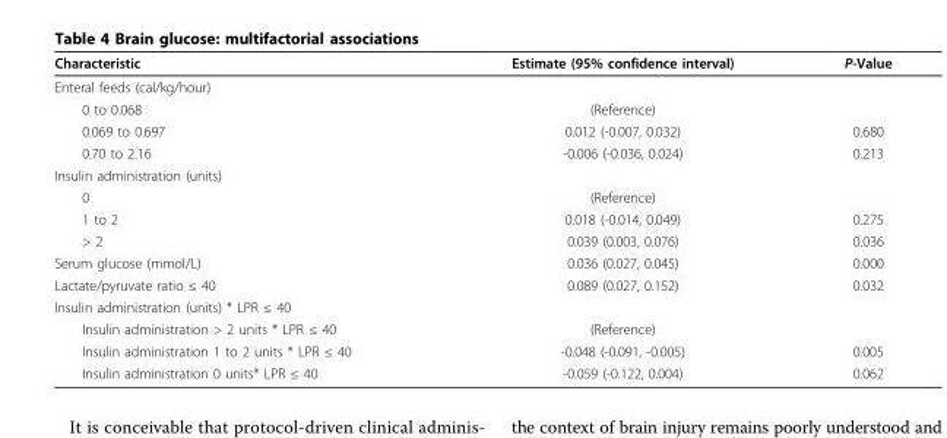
<table><thead><tr><td>Characteristic</td><td>Estimate (95% confidence interval)</td><td>P-Value</td></tr></thead><tbody><tr><td colspan="3">Enteral feeds (cal/kg/hour)</td></tr><tr><td>0 to 0.068</td><td>(Reference)</td><td></td></tr><tr><td>0.069 to 0.697</td><td>0.012 (-0.007, 0.032)</td><td>0.680</td></tr><tr><td>0.70 to 2.16</td><td>-0.006 (-0.036, 0.024)</td><td>0.213</td></tr><tr><td colspan="3">Insulin administration (units)</td></tr><tr><td>0</td><td>(Reference)</td><td></td></tr><tr><td>1 to 2</td><td>0.018 (-0.014, 0.049)</td><td>0.275</td></tr><tr><td>&gt; 2</td><td>0.039 (0.003, 0.076)</td><td>0.036</td></tr><tr><td>Serum glucose (mmol/L)</td><td>0.036 (0.027, 0.045)</td><td>0.000</td></tr><tr><td>Lactate/pyruvate ratio ≤ 40</td><td>0.089 (0.027, 0.152)</td><td>0.032</td></tr><tr><td colspan="3">Insulin administration (units) * LPR ≤ 40</td></tr><tr><td>Insulin administration &gt; 2 units * LPR ≤ 40</td><td>(Reference)</td><td></td></tr><tr><td>Insulin administration 1 to 2 units * LPR ≤ 40</td><td>-0.048 (-0.091, -0.005)</td><td>0.005</td></tr><tr><td>Insulin administration 0 units* LPR ≤ 40</td><td>-0.059 (-0.122, 0.004)</td><td>0.062</td></tr></tbody></table>